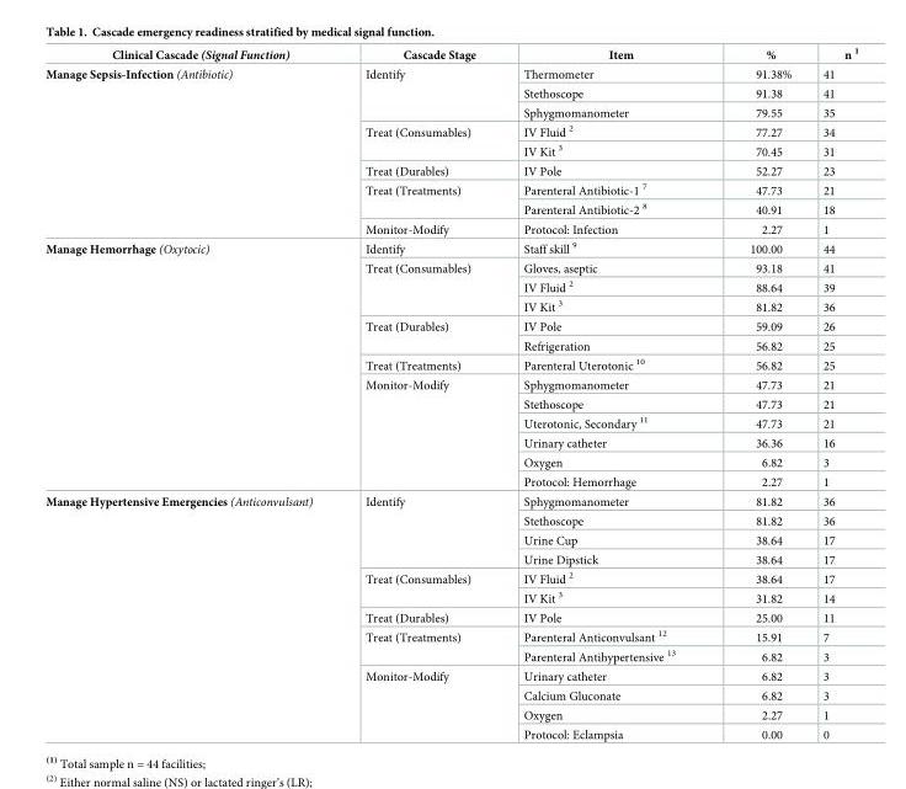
<table><thead><tr><td>Clinical Cascade (Signal Function)</td><td>Cascade Stage</td><td>Item</td><td>%</td><td>n <sup>1</sup></td></tr></thead><tbody><tr><td rowspan="9">Manage Sepsis-Infection (Antibiotic)</td><td rowspan="3">Identify</td><td>Thermometer</td><td>91.38%</td><td>41</td></tr><tr><td>Stethoscope</td><td>91.38</td><td>41</td></tr><tr><td>Sphygmomanometer</td><td>79.55</td><td>35</td></tr><tr><td rowspan="2">Treat (Consumables)</td><td>IV Fluid <sup>2</sup></td><td>77.27</td><td>34</td></tr><tr><td>IV Kit <sup>3</sup></td><td>70.45</td><td>31</td></tr><tr><td>Treat (Durables)</td><td>IV Pole</td><td>52.27</td><td>23</td></tr><tr><td rowspan="2">Treat (Treatments)</td><td>Parenteral Antibiotic-1 <sup>7</sup></td><td>47.73</td><td>21</td></tr><tr><td>Parenteral Antibiotic-2 <sup>8</sup></td><td>40.91</td><td>18</td></tr><tr><td>Monitor-Modify</td><td>Protocol: Infection</td><td>2.27</td><td>1</td></tr><tr><td rowspan="13">Manage Hemorrhage (Oxytocic)</td><td>Identify</td><td>Staff skill <sup>9</sup></td><td>100.00</td><td>44</td></tr><tr><td rowspan="3">Treat (Consumables)</td><td>Gloves, aseptic</td><td>93.18</td><td>41</td></tr><tr><td>IV Fluid <sup>2</sup></td><td>88.64</td><td>39</td></tr><tr><td>IV Kit <sup>3</sup></td><td>81.82</td><td>36</td></tr><tr><td rowspan="2">Treat (Durables)</td><td>IV Pole</td><td>59.09</td><td>26</td></tr><tr><td>Refrigeration</td><td>56.82</td><td>25</td></tr><tr><td>Treat (Treatments)</td><td>Parenteral Uterotonic <sup>10</sup></td><td>56.82</td><td>25</td></tr><tr><td rowspan="6">Monitor-Modify</td><td>Sphygmomanometer</td><td>47.73</td><td>21</td></tr><tr><td>Stethoscope</td><td>47.73</td><td>21</td></tr><tr><td>Uterotonic, Secondary <sup>11</sup></td><td>47.73</td><td>21</td></tr><tr><td>Urinary catheter</td><td>36.36</td><td>16</td></tr><tr><td>Oxygen</td><td>6.82</td><td>3</td></tr><tr><td>Protocol: Hemorrhage</td><td>2.27</td><td>1</td></tr><tr><td rowspan="13">Manage Hypertensive Emergencies (Anticonvulsant)</td><td rowspan="4">Identify</td><td>Sphygmomanometer</td><td>81.82</td><td>36</td></tr><tr><td>Stethoscope</td><td>81.82</td><td>36</td></tr><tr><td>Urine Cup</td><td>38.64</td><td>17</td></tr><tr><td>Urine Dipstick</td><td>38.64</td><td>17</td></tr><tr><td rowspan="2">Treat (Consumables)</td><td>IV Fluid <sup>2</sup></td><td>38.64</td><td>17</td></tr><tr><td>IV Kit <sup>3</sup></td><td>31.82</td><td>14</td></tr><tr><td>Treat (Durables)</td><td>IV Pole</td><td>25.00</td><td>11</td></tr><tr><td rowspan="2">Treat (Treatments)</td><td>Parenteral Anticonvulsant <sup>12</sup></td><td>15.91</td><td>7</td></tr><tr><td>Parenteral Antihypertensive <sup>13</sup></td><td>6.82</td><td>3</td></tr><tr><td rowspan="4">Monitor-Modify</td><td>Urinary catheter</td><td>6.82</td><td>3</td></tr><tr><td>Calcium Gluconate</td><td>6.82</td><td>3</td></tr><tr><td>Oxygen</td><td>2.27</td><td>1</td></tr><tr><td>Protocol: Eclampsia</td><td>0.00</td><td>0</td></tr></tbody></table>